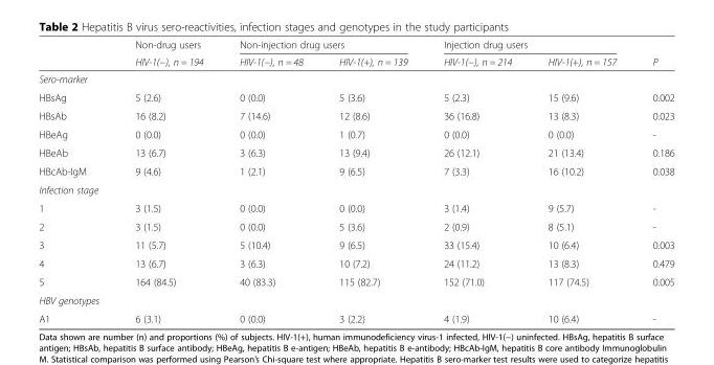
<table><thead><tr><td rowspan="2"></td><td rowspan="2">Non-drug users HIV-1(−), n = 194</td><td colspan="2">Non-injection drug users</td><td colspan="2">Injection drug users</td><td rowspan="2">P</td></tr><tr><td>HIV-1(−), n = 48</td><td>HIV-1(+), n = 139</td><td>HIV-1(−), n = 214</td><td>HIV-1(+), n = 157</td></tr></thead><tbody><tr><td colspan="7">Sero-marker</td></tr><tr><td>HBsAg</td><td>5 (2.6)</td><td>0 (0.0)</td><td>5 (3.6)</td><td>5 (2.3)</td><td>15 (9.6)</td><td>0.002</td></tr><tr><td>HBsAb</td><td>16 (8.2)</td><td>7 (14.6)</td><td>12 (8.6)</td><td>36 (16.8)</td><td>13 (8.3)</td><td>0.023</td></tr><tr><td>HBeAg</td><td>0 (0.0)</td><td>0 (0.0)</td><td>1 (0.7)</td><td>0 (0.0)</td><td>0 (0.0)</td><td>-</td></tr><tr><td>HBeAb</td><td>13 (6.7)</td><td>3 (6.3)</td><td>13 (9.4)</td><td>26 (12.1)</td><td>21 (13.4)</td><td>0.186</td></tr><tr><td>HBcAb-IgM</td><td>9 (4.6)</td><td>1 (2.1)</td><td>9 (6.5)</td><td>7 (3.3)</td><td>16 (10.2)</td><td>0.038</td></tr><tr><td colspan="7">Infection stage</td></tr><tr><td>1</td><td>3 (1.5)</td><td>0 (0.0)</td><td>0 (0.0)</td><td>3 (1.4)</td><td>9 (5.7)</td><td>-</td></tr><tr><td>2</td><td>3 (1.5)</td><td>0 (0.0)</td><td>5 (3.6)</td><td>2 (0.9)</td><td>8 (5.1)</td><td>-</td></tr><tr><td>3</td><td>11 (5.7)</td><td>5 (10.4)</td><td>9 (6.5)</td><td>33 (15.4)</td><td>10 (6.4)</td><td>0.003</td></tr><tr><td>4</td><td>13 (6.7)</td><td>3 (6.3)</td><td>10 (7.2)</td><td>24 (11.2)</td><td>13 (8.3)</td><td>0.479</td></tr><tr><td>5</td><td>164 (84.5)</td><td>40 (83.3)</td><td>115 (82.7)</td><td>152 (71.0)</td><td>117 (74.5)</td><td>0.005</td></tr><tr><td colspan="7">HBV genotypes</td></tr><tr><td>A1</td><td>6 (3.1)</td><td>0 (0.0)</td><td>3 (2.2)</td><td>4 (1.9)</td><td>10 (6.4)</td><td>-</td></tr></tbody></table>